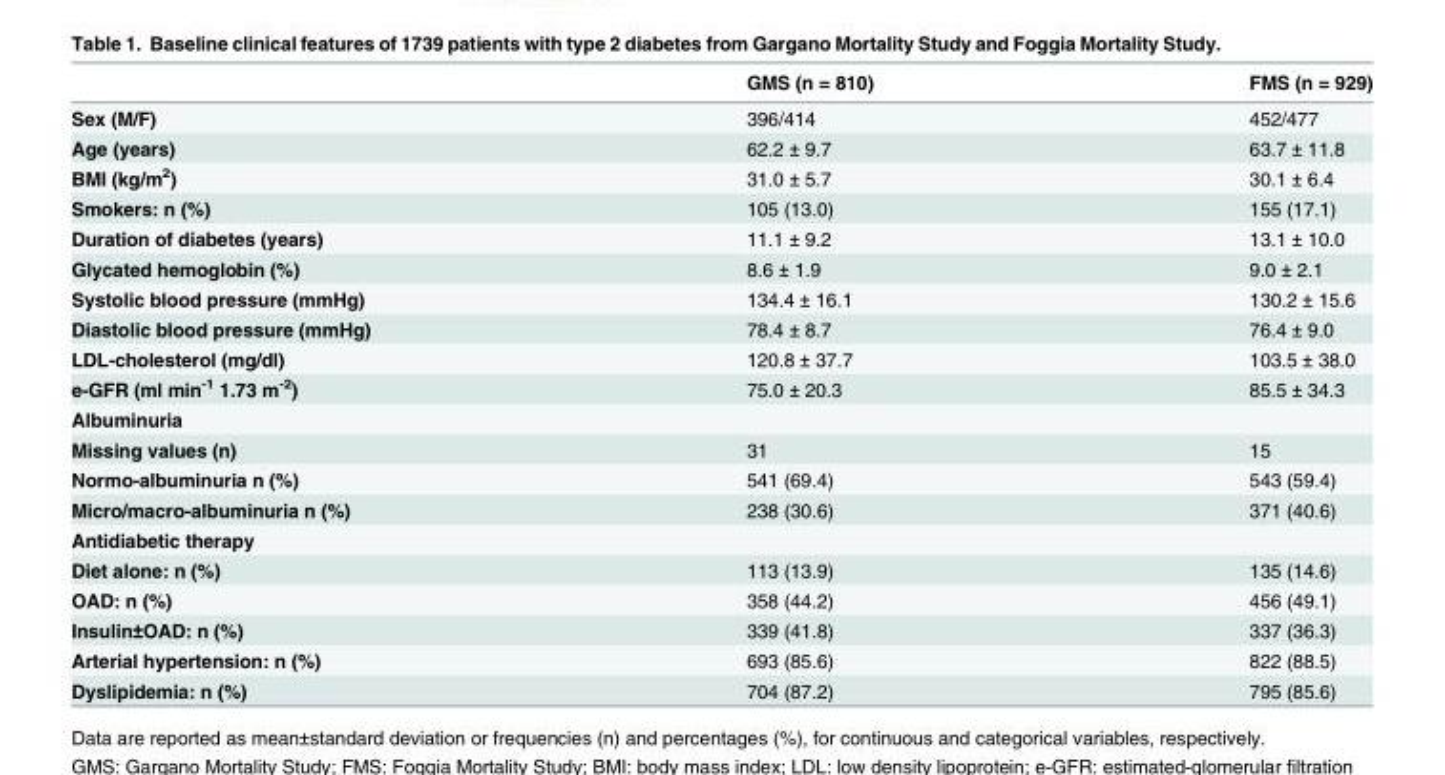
<table><thead><tr><td></td><td>GMS (n = 810)</td><td>FMS (n = 929)</td></tr></thead><tbody><tr><td>Sex (M/F)</td><td>396/414</td><td>452/477</td></tr><tr><td>Age (years)</td><td>62.2 ± 9.7</td><td>63.7 ± 11.8</td></tr><tr><td>BMI (kg/m<sup>2</sup>)</td><td>31.0 ± 5.7</td><td>30.1 ± 6.4</td></tr><tr><td>Smokers: n (%)</td><td>105 (13.0)</td><td>155 (17.1)</td></tr><tr><td>Duration of diabetes (years)</td><td>11.1 ± 9.2</td><td>13.1 ± 10.0</td></tr><tr><td>Glycated hemoglobin (%)</td><td>8.6 ± 1.9</td><td>9.0 ± 2.1</td></tr><tr><td>Systolic blood pressure (mmHg)</td><td>134.4 ± 16.1</td><td>130.2 ± 15.6</td></tr><tr><td>Diastolic blood pressure (mmHg)</td><td>78.4 ± 8.7</td><td>76.4 ± 9.0</td></tr><tr><td>LDL-cholesterol (mg/dl)</td><td>120.8 ± 37.7</td><td>103.5 ± 38.0</td></tr><tr><td>e-GFR (ml min<sup>-1</sup> 1.73 m<sup>-2</sup>)</td><td>75.0 ± 20.3</td><td>85.5 ± 34.3</td></tr><tr><td colspan="3">Albuminuria</td></tr><tr><td>Missing values (n)</td><td>31</td><td>15</td></tr><tr><td>Normo-albuminuria n (%)</td><td>541 (69.4)</td><td>543 (59.4)</td></tr><tr><td>Micro/macro-albuminuria n (%)</td><td>238 (30.6)</td><td>371 (40.6)</td></tr><tr><td colspan="3">Antidiabetic therapy</td></tr><tr><td>Diet alone: n (%)</td><td>113 (13.9)</td><td>135 (14.6)</td></tr><tr><td>OAD: n (%)</td><td>358 (44.2)</td><td>456 (49.1)</td></tr><tr><td>Insulin±OAD: n (%)</td><td>339 (41.8)</td><td>337 (36.3)</td></tr><tr><td>Arterial hypertension: n (%)</td><td>693 (85.6)</td><td>822 (88.5)</td></tr><tr><td>Dyslipidemia: n (%)</td><td>704 (87.2)</td><td>795 (85.6)</td></tr></tbody></table>